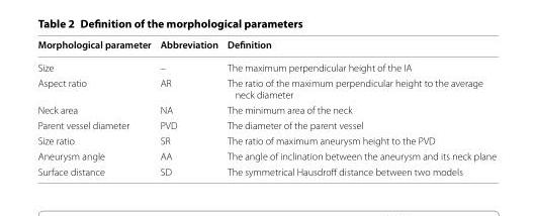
<table><thead><tr><td>Morphological parameter</td><td>Abbreviation</td><td>Definition</td></tr></thead><tbody><tr><td>Size</td><td>–</td><td>The maximum perpendicular height of the IA</td></tr><tr><td>Aspect ratio</td><td>AR</td><td>The ratio of the maximum perpendicular height to the average neck diameter</td></tr><tr><td>Neck area</td><td>NA</td><td>The minimum area of the neck</td></tr><tr><td>Parent vessel diameter</td><td>PVD</td><td>The diameter of the parent vessel</td></tr><tr><td>Size ratio</td><td>SR</td><td>The ratio of maximum aneurysm height to the PVD</td></tr><tr><td>Aneurysm angle</td><td>AA</td><td>The angle of inclination between the aneurysm and its neck plane</td></tr><tr><td>Surface distance</td><td>SD</td><td>The symmetrical Hausdroff distance between two models</td></tr></tbody></table>